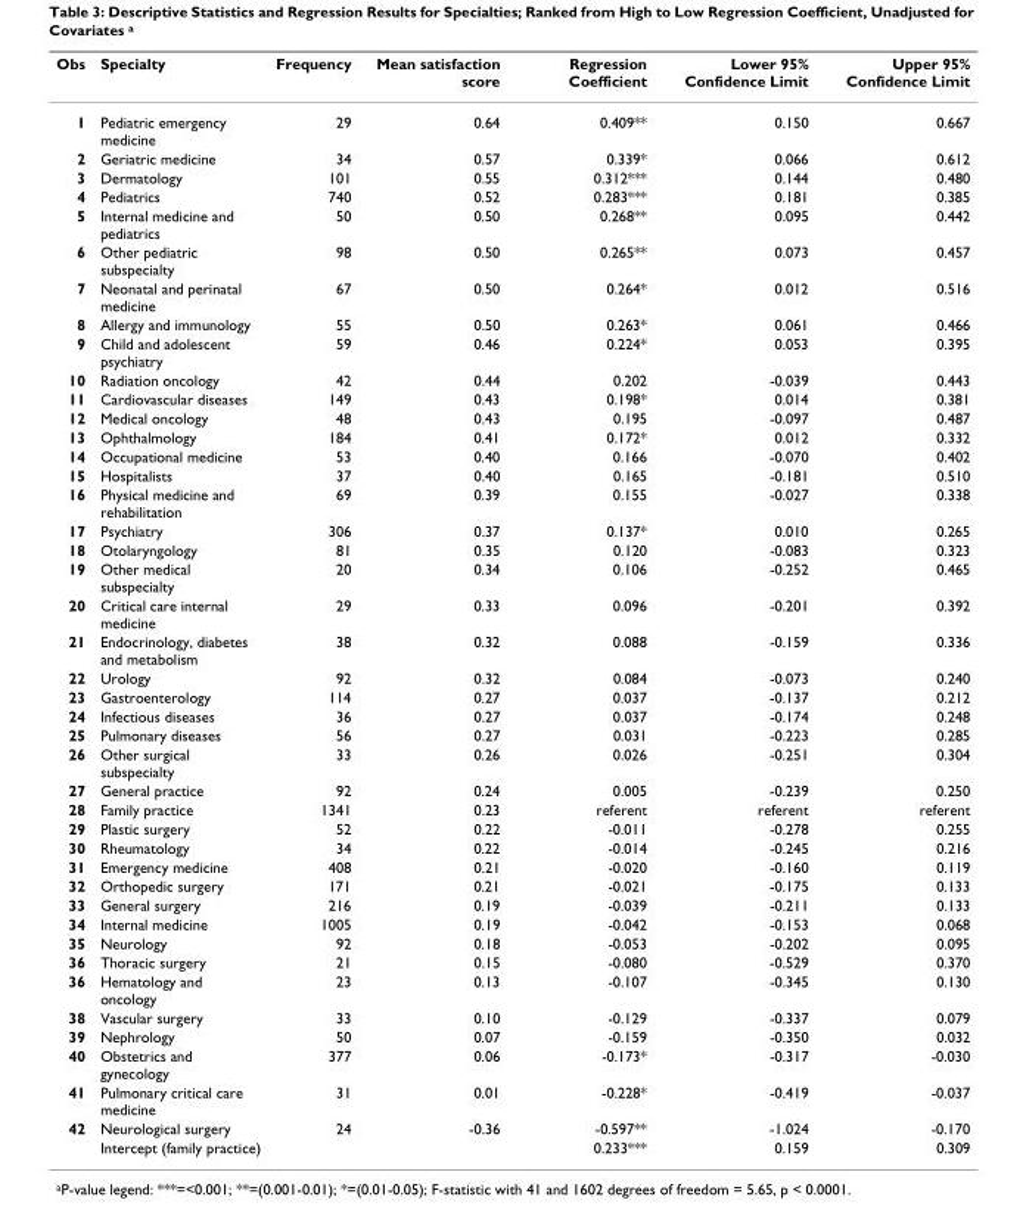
<table><thead><tr><td>Obs</td><td>Specialty</td><td>Frequency</td><td>Mean satisfaction score</td><td>Regression Coefficient</td><td>Lower 95% Confidence Limit</td><td>Upper 95% Confidence Limit</td></tr></thead><tbody><tr><td>1</td><td>Pediatric emergency medicine</td><td>29</td><td>0.64</td><td>0.409**</td><td>0.150</td><td>0.667</td></tr><tr><td>2</td><td>Geriatric medicine</td><td>34</td><td>0.57</td><td>0.339*</td><td>0.066</td><td>0.612</td></tr><tr><td>3</td><td>Dermatology</td><td>101</td><td>0.55</td><td>0.312***</td><td>0.144</td><td>0.480</td></tr><tr><td>4</td><td>Pediatrics</td><td>740</td><td>0.52</td><td>0.283***</td><td>0.181</td><td>0.385</td></tr><tr><td>5</td><td>Internal medicine and pediatrics</td><td>50</td><td>0.50</td><td>0.268**</td><td>0.095</td><td>0.442</td></tr><tr><td>6</td><td>Other pediatric subspecialty</td><td>98</td><td>0.50</td><td>0.265**</td><td>0.073</td><td>0.457</td></tr><tr><td>7</td><td>Neonatal and perinatal medicine</td><td>67</td><td>0.50</td><td>0.264*</td><td>0.012</td><td>0.516</td></tr><tr><td>8</td><td>Allergy and immunology</td><td>55</td><td>0.50</td><td>0.263*</td><td>0.061</td><td>0.466</td></tr><tr><td>9</td><td>Child and adolescent psychiatry</td><td>59</td><td>0.46</td><td>0.224*</td><td>0.053</td><td>0.395</td></tr><tr><td>10</td><td>Radiation oncology</td><td>42</td><td>0.44</td><td>0.202</td><td>-0.039</td><td>0.443</td></tr><tr><td>11</td><td>Cardiovascular diseases</td><td>149</td><td>0.43</td><td>0.198*</td><td>0.014</td><td>0.381</td></tr><tr><td>12</td><td>Medical oncology</td><td>48</td><td>0.43</td><td>0.195</td><td>-0.097</td><td>0.487</td></tr><tr><td>13</td><td>Ophthalmology</td><td>184</td><td>0.41</td><td>0.172*</td><td>0.012</td><td>0.332</td></tr><tr><td>14</td><td>Occupational medicine</td><td>53</td><td>0.40</td><td>0.166</td><td>-0.070</td><td>0.402</td></tr><tr><td>15</td><td>Hospitalists</td><td>37</td><td>0.40</td><td>0.165</td><td>-0.181</td><td>0.510</td></tr><tr><td>16</td><td>Physical medicine and rehabilitation</td><td>69</td><td>0.39</td><td>0.155</td><td>-0.027</td><td>0.338</td></tr><tr><td>17</td><td>Psychiatry</td><td>306</td><td>0.37</td><td>0.137*</td><td>0.010</td><td>0.265</td></tr><tr><td>18</td><td>Otolaryngology</td><td>81</td><td>0.35</td><td>0.120</td><td>-0.083</td><td>0.323</td></tr><tr><td>19</td><td>Other medical subspecialty</td><td>20</td><td>0.34</td><td>0.106</td><td>-0.252</td><td>0.465</td></tr><tr><td>20</td><td>Critical care internal medicine</td><td>29</td><td>0.33</td><td>0.096</td><td>-0.201</td><td>0.392</td></tr><tr><td>21</td><td>Endocrinology, diabetes and metabolism</td><td>38</td><td>0.32</td><td>0.088</td><td>-0.159</td><td>0.336</td></tr><tr><td>22</td><td>Urology</td><td>92</td><td>0.32</td><td>0.084</td><td>-0.073</td><td>0.240</td></tr><tr><td>23</td><td>Gastroenterology</td><td>114</td><td>0.27</td><td>0.037</td><td>-0.137</td><td>0.212</td></tr><tr><td>24</td><td>Infectious diseases</td><td>36</td><td>0.27</td><td>0.037</td><td>-0.174</td><td>0.248</td></tr><tr><td>25</td><td>Pulmonary diseases</td><td>56</td><td>0.27</td><td>0.031</td><td>-0.223</td><td>0.285</td></tr><tr><td>26</td><td>Other surgical subspecialty</td><td>33</td><td>0.26</td><td>0.026</td><td>-0.251</td><td>0.304</td></tr><tr><td>27</td><td>General practice</td><td>92</td><td>0.24</td><td>0.005</td><td>-0.239</td><td>0.250</td></tr><tr><td>28</td><td>Family practice</td><td>1341</td><td>0.23</td><td>referent</td><td>referent</td><td>referent</td></tr><tr><td>29</td><td>Plastic surgery</td><td>52</td><td>0.22</td><td>-0.011</td><td>-0.278</td><td>0.255</td></tr><tr><td>30</td><td>Rheumatology</td><td>34</td><td>0.22</td><td>-0.014</td><td>-0.245</td><td>0.216</td></tr><tr><td>31</td><td>Emergency medicine</td><td>408</td><td>0.21</td><td>-0.020</td><td>-0.160</td><td>0.119</td></tr><tr><td>32</td><td>Orthopedic surgery</td><td>171</td><td>0.21</td><td>-0.021</td><td>-0.175</td><td>0.133</td></tr><tr><td>33</td><td>General surgery</td><td>216</td><td>0.19</td><td>-0.039</td><td>-0.211</td><td>0.133</td></tr><tr><td>34</td><td>Internal medicine</td><td>1005</td><td>0.19</td><td>-0.042</td><td>-0.153</td><td>0.068</td></tr><tr><td>35</td><td>Neurology</td><td>92</td><td>0.18</td><td>-0.053</td><td>-0.202</td><td>0.095</td></tr><tr><td>36</td><td>Thoracic surgery</td><td>21</td><td>0.15</td><td>-0.080</td><td>-0.529</td><td>0.370</td></tr><tr><td>36</td><td>Hematology and oncology</td><td>23</td><td>0.13</td><td>-0.107</td><td>-0.345</td><td>0.130</td></tr><tr><td>38</td><td>Vascular surgery</td><td>33</td><td>0.10</td><td>-0.129</td><td>-0.337</td><td>0.079</td></tr><tr><td>39</td><td>Nephrology</td><td>50</td><td>0.07</td><td>-0.159</td><td>-0.350</td><td>0.032</td></tr><tr><td>40</td><td>Obstetrics and gynecology</td><td>377</td><td>0.06</td><td>-0.173*</td><td>-0.317</td><td>-0.030</td></tr><tr><td>41</td><td>Pulmonary critical care medicine</td><td>31</td><td>0.01</td><td>-0.228*</td><td>-0.419</td><td>-0.037</td></tr><tr><td rowspan="2">42</td><td>Neurological surgery</td><td>24</td><td>-0.36</td><td>-0.597**</td><td>-1.024</td><td>-0.170</td></tr><tr><td>Intercept (family practice)</td><td></td><td></td><td>0.233***</td><td>0.159</td><td>0.309</td></tr></tbody></table>